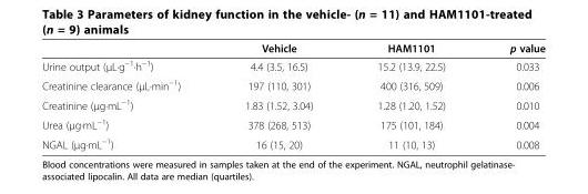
<table><thead><tr><td></td><td>Vehicle</td><td>HAM1101</td><td>p value</td></tr></thead><tbody><tr><td>Urine output (μL·g<sup>−1</sup>·h<sup>−1</sup>)</td><td>4.4 (3.5, 16.5)</td><td>15.2 (13.9, 22.5)</td><td>0.033</td></tr><tr><td>Creatinine clearance (μL·min<sup>−1</sup>)</td><td>197 (110, 301)</td><td>400 (316, 509)</td><td>0.006</td></tr><tr><td>Creatinine (μg·mL<sup>−1</sup>)</td><td>1.83 (1.52, 3.04)</td><td>1.28 (1.20, 1.52)</td><td>0.010</td></tr><tr><td>Urea (μg·mL<sup>−1</sup>)</td><td>378 (268, 513)</td><td>175 (101, 184)</td><td>0.004</td></tr><tr><td>NGAL (μg·mL<sup>−1</sup>)</td><td>16 (15, 20)</td><td>11 (10, 13)</td><td>0.008</td></tr></tbody></table>